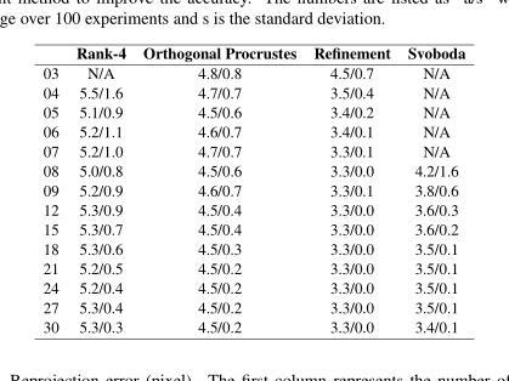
<table><thead><tr><td></td><td>Rank-4</td><td>Orthogonal Procrustes</td><td>Refinement</td><td>Svoboda</td></tr></thead><tbody><tr><td>03</td><td>N/A</td><td>4.8/0.8</td><td>4.5/0.7</td><td>N/A</td></tr><tr><td>04</td><td>5.5/1.6</td><td>4.7/0.7</td><td>3.5/0.4</td><td>N/A</td></tr><tr><td>05</td><td>5.1/0.9</td><td>4.5/0.6</td><td>3.4/0.2</td><td>N/A</td></tr><tr><td>06</td><td>5.2/1.1</td><td>4.6/0.7</td><td>3.4/0.1</td><td>N/A</td></tr><tr><td>07</td><td>5.2/1.0</td><td>4.7/0.7</td><td>3.3/0.1</td><td>N/A</td></tr><tr><td>08</td><td>5.0/0.8</td><td>4.5/0.6</td><td>3.3/0.0</td><td>4.2/1.6</td></tr><tr><td>09</td><td>5.2/0.9</td><td>4.6/0.7</td><td>3.3/0.1</td><td>3.8/0.6</td></tr><tr><td>12</td><td>5.3/0.9</td><td>4.5/0.4</td><td>3.3/0.0</td><td>3.6/0.3</td></tr><tr><td>15</td><td>5.3/0.7</td><td>4.5/0.4</td><td>3.3/0.0</td><td>3.6/0.2</td></tr><tr><td>18</td><td>5.3/0.6</td><td>4.5/0.3</td><td>3.3/0.0</td><td>3.5/0.1</td></tr><tr><td>21</td><td>5.2/0.5</td><td>4.5/0.2</td><td>3.3/0.0</td><td>3.5/0.1</td></tr><tr><td>24</td><td>5.2/0.4</td><td>4.5/0.2</td><td>3.3/0.0</td><td>3.5/0.1</td></tr><tr><td>27</td><td>5.3/0.4</td><td>4.5/0.2</td><td>3.3/0.0</td><td>3.5/0.1</td></tr><tr><td>30</td><td>5.3/0.3</td><td>4.5/0.2</td><td>3.3/0.0</td><td>3.4/0.1</td></tr></tbody></table>